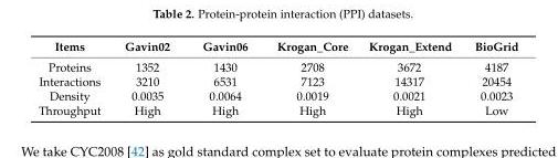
<table><thead><tr><td>Items</td><td>Gavin02</td><td>Gavin06</td><td>Krogan_Core</td><td>Krogan_Extend</td><td>BioGrid</td></tr></thead><tbody><tr><td>Proteins</td><td>1352</td><td>1430</td><td>2708</td><td>3672</td><td>4187</td></tr><tr><td>Interactions</td><td>3210</td><td>6531</td><td>7123</td><td>14317</td><td>20454</td></tr><tr><td>Density</td><td>0.0035</td><td>0.0064</td><td>0.0019</td><td>0.0021</td><td>0.0023</td></tr><tr><td>Throughput</td><td>High</td><td>High</td><td>High</td><td>High</td><td>Low</td></tr></tbody></table>